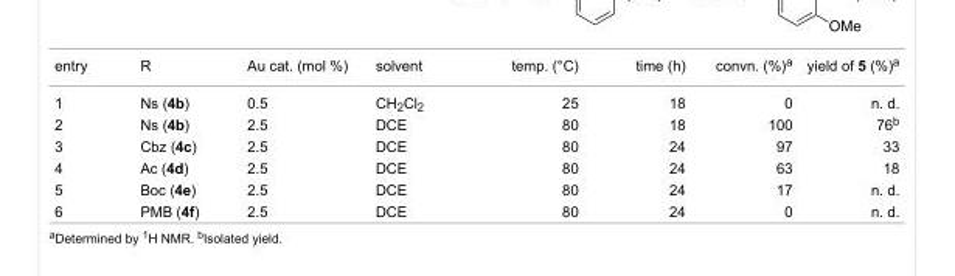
<table><tbody><tr><td>entry</td><td>R</td><td>Au cat. (mol %)</td><td>solvent</td><td>temp. (°C)</td><td>time (h)</td><td>convn. (%)<sup>a</sup></td><td>yield of 5 (%)<sup>a</sup></td></tr><tr><td>1</td><td>Ns (4b)</td><td>0.5</td><td>CH<sub>2</sub>Cl<sub>2</sub></td><td>25</td><td>18</td><td>0</td><td>n. d.</td></tr><tr><td>2</td><td>Ns (4b)</td><td>2.5</td><td>DCE</td><td>80</td><td>18</td><td>100</td><td>76<sup>b</sup></td></tr><tr><td>3</td><td>Cbz (4c)</td><td>2.5</td><td>DCE</td><td>80</td><td>24</td><td>97</td><td>33</td></tr><tr><td>4</td><td>Ac (4d)</td><td>2.5</td><td>DCE</td><td>80</td><td>24</td><td>63</td><td>18</td></tr><tr><td>5</td><td>Boc (4e)</td><td>2.5</td><td>DCE</td><td>80</td><td>24</td><td>17</td><td>n. d.</td></tr><tr><td>6</td><td>PMB (4f)</td><td>2.5</td><td>DCE</td><td>80</td><td>24</td><td>0</td><td>n. d.</td></tr></tbody></table>